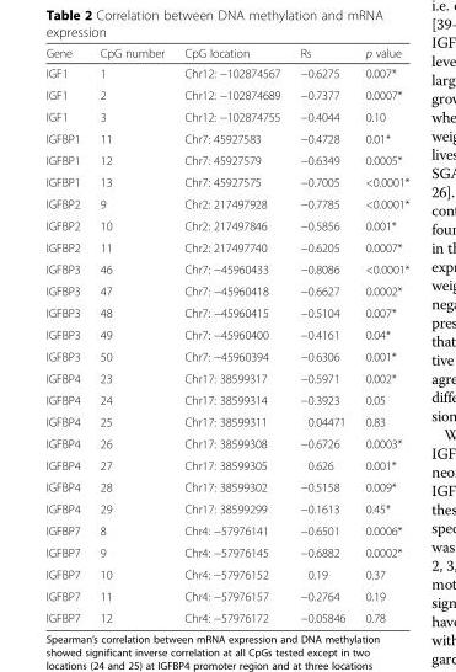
<table><thead><tr><td>Gene</td><td>CpG number</td><td>CpG location</td><td>Rs</td><td>p value</td></tr></thead><tbody><tr><td>IGF1</td><td>1</td><td>Chr12: −102874567</td><td>−0.6275</td><td>0.007*</td></tr><tr><td>IGF1</td><td>2</td><td>Chr12: −102874689</td><td>−0.7377</td><td>0.0007*</td></tr><tr><td>IGF1</td><td>3</td><td>Chr12: −102874755</td><td>−0.4044</td><td>0.10</td></tr><tr><td>IGFBP1</td><td>11</td><td>Chr7: 45927583</td><td>−0.4728</td><td>0.01*</td></tr><tr><td>IGFBP1</td><td>12</td><td>Chr7: 45927579</td><td>−0.6349</td><td>0.0005*</td></tr><tr><td>IGFBP1</td><td>13</td><td>Chr7: 45927575</td><td>−0.7005</td><td>&lt;0.0001*</td></tr><tr><td>IGFBP2</td><td>9</td><td>Chr2: 217497928</td><td>−0.7785</td><td>&lt;0.0001*</td></tr><tr><td>IGFBP2</td><td>10</td><td>Chr2: 217497846</td><td>−0.5856</td><td>0.001*</td></tr><tr><td>IGFBP2</td><td>11</td><td>Chr2: 217497740</td><td>−0.6205</td><td>0.0007*</td></tr><tr><td>IGFBP3</td><td>46</td><td>Chr7: −45960433</td><td>−0.8086</td><td>&lt;0.0001*</td></tr><tr><td>IGFBP3</td><td>47</td><td>Chr7: −45960418</td><td>−0.6627</td><td>0.0002*</td></tr><tr><td>IGFBP3</td><td>48</td><td>Chr7: −45960415</td><td>−0.5104</td><td>0.007*</td></tr><tr><td>IGFBP3</td><td>49</td><td>Chr7: −45960400</td><td>−0.4161</td><td>0.04*</td></tr><tr><td>IGFBP3</td><td>50</td><td>Chr7: −45960394</td><td>−0.6306</td><td>0.001*</td></tr><tr><td>IGFBP4</td><td>23</td><td>Chr17: 38599317</td><td>−0.5971</td><td>0.002*</td></tr><tr><td>IGFBP4</td><td>24</td><td>Chr17: 38599314</td><td>−0.3923</td><td>0.05</td></tr><tr><td>IGFBP4</td><td>25</td><td>Chr17: 38599311</td><td>0.04471</td><td>0.83</td></tr><tr><td>IGFBP4</td><td>26</td><td>Chr17: 38599308</td><td>−0.6726</td><td>0.0003*</td></tr><tr><td>IGFBP4</td><td>27</td><td>Chr17: 38599305</td><td>0.626</td><td>0.001*</td></tr><tr><td>IGFBP4</td><td>28</td><td>Chr17: 38599302</td><td>−0.5158</td><td>0.009*</td></tr><tr><td>IGFBP4</td><td>29</td><td>Chr17: 38599299</td><td>−0.1613</td><td>0.45*</td></tr><tr><td>IGFBP7</td><td>8</td><td>Chr4: −57976141</td><td>−0.6501</td><td>0.0006*</td></tr><tr><td>IGFBP7</td><td>9</td><td>Chr4: −57976145</td><td>−0.6882</td><td>0.0002*</td></tr><tr><td>IGFBP7</td><td>10</td><td>Chr4: −57976152</td><td>0.19</td><td>0.37</td></tr><tr><td>IGFBP7</td><td>11</td><td>Chr4: −57976157</td><td>−0.2764</td><td>0.19</td></tr><tr><td>IGFBP7</td><td>12</td><td>Chr4: −57976172</td><td>−0.05846</td><td>0.78</td></tr></tbody></table>